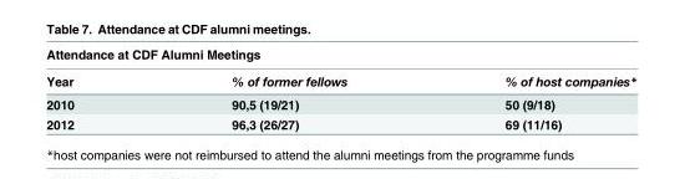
<table><thead><tr><td colspan="3">Attendance at CDF Alumni Meetings</td></tr><tr><td>Year</td><td>% of former fellows</td><td>% of host companies*</td></tr></thead><tbody><tr><td>2010</td><td>90,5 (19/21)</td><td>50 (9/18)</td></tr><tr><td>2012</td><td>96,3 (26/27)</td><td>69 (11/16)</td></tr></tbody></table>